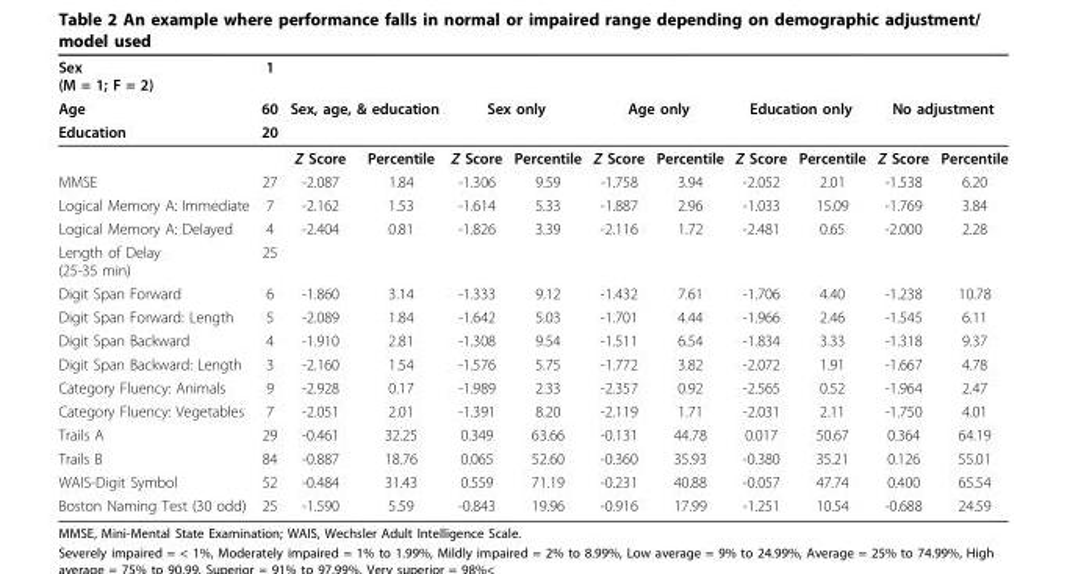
<table><thead><tr><td rowspan="3">Sex (M = 1; F = 2) Age Education</td><td rowspan="3">1 60 20</td><td></td><td></td><td></td><td></td><td></td><td></td><td></td><td></td><td></td><td></td></tr><tr><td colspan="2">Sex, age, &amp; education</td><td colspan="2">Sex only</td><td colspan="2">Age only</td><td colspan="2">Education only</td><td colspan="2">No adjustment</td></tr><tr><td></td><td></td><td></td><td></td><td></td><td></td><td></td><td></td><td></td><td></td></tr></thead><tbody><tr><td></td><td></td><td>Z Score</td><td>Percentile</td><td>Z Score</td><td>Percentile</td><td>Z Score</td><td>Percentile</td><td>Z Score</td><td>Percentile</td><td>Z Score</td><td>Percentile</td></tr><tr><td>MMSE</td><td>27</td><td>-2.087</td><td>1.84</td><td>-1.306</td><td>9.59</td><td>-1.758</td><td>3.94</td><td>-2.052</td><td>2.01</td><td>-1.538</td><td>6.20</td></tr><tr><td>Logical Memory A: Immediate</td><td>7</td><td>-2.162</td><td>1.53</td><td>-1.614</td><td>5.33</td><td>-1.887</td><td>2.96</td><td>-1.033</td><td>15.09</td><td>-1.769</td><td>3.84</td></tr><tr><td>Logical Memory A: Delayed</td><td>4</td><td>-2.404</td><td>0.81</td><td>-1.826</td><td>3.39</td><td>-2.116</td><td>1.72</td><td>-2.481</td><td>0.65</td><td>-2.000</td><td>2.28</td></tr><tr><td>Length of Delay (25-35 min)</td><td>25</td><td></td><td></td><td></td><td></td><td></td><td></td><td></td><td></td><td></td><td></td></tr><tr><td>Digit Span Forward</td><td>6</td><td>-1.860</td><td>3.14</td><td>-1.333</td><td>9.12</td><td>-1.432</td><td>7.61</td><td>-1.706</td><td>4.40</td><td>-1.238</td><td>10.78</td></tr><tr><td>Digit Span Forward: Length</td><td>5</td><td>-2.089</td><td>1.84</td><td>-1.642</td><td>5.03</td><td>-1.701</td><td>4.44</td><td>-1.966</td><td>2.46</td><td>-1.545</td><td>6.11</td></tr><tr><td>Digit Span Backward</td><td>4</td><td>-1.910</td><td>2.81</td><td>-1.308</td><td>9.54</td><td>-1.511</td><td>6.54</td><td>-1.834</td><td>3.33</td><td>-1.318</td><td>9.37</td></tr><tr><td>Digit Span Backward: Length</td><td>3</td><td>-2.160</td><td>1.54</td><td>-1.576</td><td>5.75</td><td>-1.772</td><td>3.82</td><td>-2.072</td><td>1.91</td><td>-1.667</td><td>4.78</td></tr><tr><td>Category Fluency: Animals</td><td>9</td><td>-2.928</td><td>0.17</td><td>-1.989</td><td>2.33</td><td>-2.357</td><td>0.92</td><td>-2.565</td><td>0.52</td><td>-1.964</td><td>2.47</td></tr><tr><td>Category Fluency: Vegetables</td><td>7</td><td>-2.051</td><td>2.01</td><td>-1.391</td><td>8.20</td><td>-2.119</td><td>1.71</td><td>-2.031</td><td>2.11</td><td>-1.750</td><td>4.01</td></tr><tr><td>Trails A</td><td>29</td><td>-0.461</td><td>32.25</td><td>0.349</td><td>63.66</td><td>-0.131</td><td>44.78</td><td>0.017</td><td>50.67</td><td>0.364</td><td>64.19</td></tr><tr><td>Trails B</td><td>84</td><td>-0.887</td><td>18.76</td><td>0.065</td><td>52.60</td><td>-0.360</td><td>35.93</td><td>-0.380</td><td>35.21</td><td>0.126</td><td>55.01</td></tr><tr><td>WAIS-Digit Symbol</td><td>52</td><td>-0.484</td><td>31.43</td><td>0.559</td><td>71.19</td><td>-0.231</td><td>40.88</td><td>-0.057</td><td>47.74</td><td>0.400</td><td>65.54</td></tr><tr><td>Boston Naming Test (30 odd)</td><td>25</td><td>-1.590</td><td>5.59</td><td>-0.843</td><td>19.96</td><td>-0.916</td><td>17.99</td><td>-1.251</td><td>10.54</td><td>-0.688</td><td>24.59</td></tr></tbody></table>